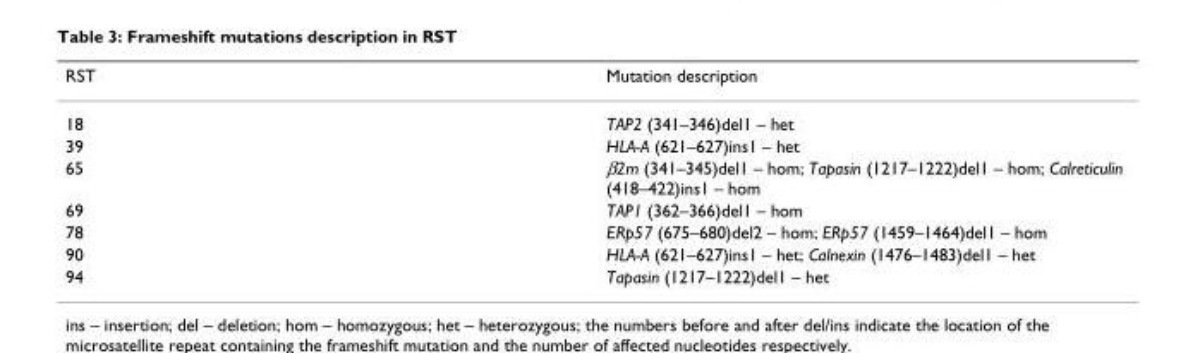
<table><thead><tr><td>RST</td><td>Mutation description</td></tr></thead><tbody><tr><td>18</td><td>TAP2 (341–346)del1 – het</td></tr><tr><td>39</td><td>HLA-A (621–627)ins1 – het</td></tr><tr><td>65</td><td>β2m (341–345)del1 – hom; Tapasin (1217–1222)del1 – hom; Calreticulin (418–422)ins1 – hom</td></tr><tr><td>69</td><td>TAP1 (362–366)del1 – hom</td></tr><tr><td>78</td><td>ERp57 (675–680)del2 – hom; ERp57 (1459–1464)del1 – hom</td></tr><tr><td>90</td><td>HLA-A (621–627)ins1 – het; Calnexin (1476–1483)del1 – het</td></tr><tr><td>94</td><td>Tapasin (1217–1222)del1 – het</td></tr></tbody></table>